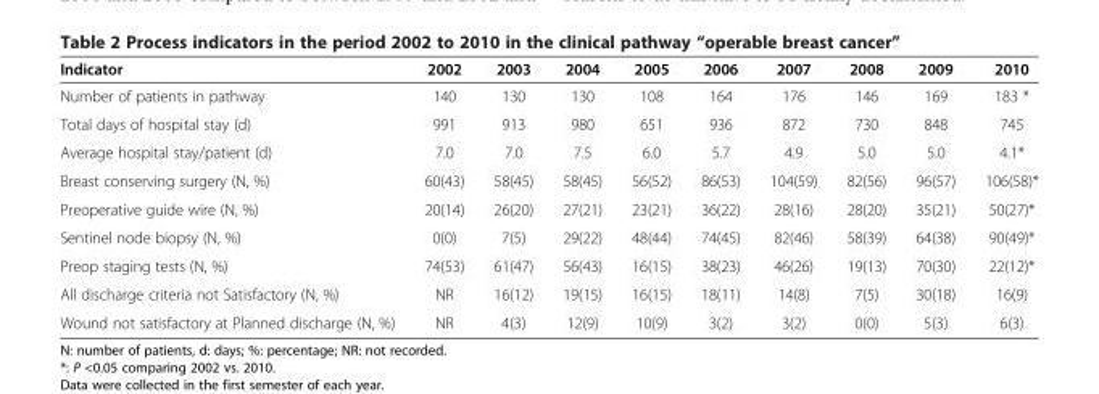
<table><thead><tr><td>Indicator</td><td>2002</td><td>2003</td><td>2004</td><td>2005</td><td>2006</td><td>2007</td><td>2008</td><td>2009</td><td>2010</td></tr></thead><tbody><tr><td>Number of patients in pathway</td><td>140</td><td>130</td><td>130</td><td>108</td><td>164</td><td>176</td><td>146</td><td>169</td><td>183 *</td></tr><tr><td>Total days of hospital stay (d)</td><td>991</td><td>913</td><td>980</td><td>651</td><td>936</td><td>872</td><td>730</td><td>848</td><td>745</td></tr><tr><td>Average hospital stay/patient (d)</td><td>7.0</td><td>7.0</td><td>7.5</td><td>6.0</td><td>5.7</td><td>4.9</td><td>5.0</td><td>5.0</td><td>4.1*</td></tr><tr><td>Breast conserving surgery (N, %)</td><td>60(43)</td><td>58(45)</td><td>58(45)</td><td>56(52)</td><td>86(53)</td><td>104(59)</td><td>82(56)</td><td>96(57)</td><td>106(58)*</td></tr><tr><td>Preoperative guide wire (N, %)</td><td>20(14)</td><td>26(20)</td><td>27(21)</td><td>23(21)</td><td>36(22)</td><td>28(16)</td><td>28(20)</td><td>35(21)</td><td>50(27)*</td></tr><tr><td>Sentinel node biopsy (N, %)</td><td>0(0)</td><td>7(5)</td><td>29(22)</td><td>48(44)</td><td>74(45)</td><td>82(46)</td><td>58(39)</td><td>64(38)</td><td>90(49)*</td></tr><tr><td>Preop staging tests (N, %)</td><td>74(53)</td><td>61(47)</td><td>56(43)</td><td>16(15)</td><td>38(23)</td><td>46(26)</td><td>19(13)</td><td>70(30)</td><td>22(12)*</td></tr><tr><td>All discharge criteria not Satisfactory (N, %)</td><td>NR</td><td>16(12)</td><td>19(15)</td><td>16(15)</td><td>18(11)</td><td>14(8)</td><td>7(5)</td><td>30(18)</td><td>16(9)</td></tr><tr><td>Wound not satisfactory at Planned discharge (N, %)</td><td>NR</td><td>4(3)</td><td>12(9)</td><td>10(9)</td><td>3(2)</td><td>3(2)</td><td>0(0)</td><td>5(3)</td><td>6(3)</td></tr></tbody></table>